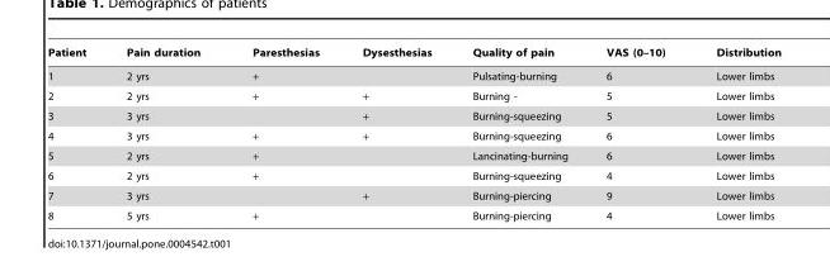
<table><thead><tr><td>Patient</td><td>Pain duration</td><td>Paresthesias</td><td>Dysesthesias</td><td>Quality of pain</td><td>VAS (0–10)</td><td>Distribution</td></tr></thead><tbody><tr><td>1</td><td>2 yrs</td><td>+</td><td></td><td>Pulsating-burning</td><td>6</td><td>Lower limbs</td></tr><tr><td>2</td><td>2 yrs</td><td>+</td><td>+</td><td>Burning -</td><td>5</td><td>Lower limbs</td></tr><tr><td>3</td><td>3 yrs</td><td></td><td>+</td><td>Burning-squeezing</td><td>5</td><td>Lower limbs</td></tr><tr><td>4</td><td>3 yrs</td><td>+</td><td>+</td><td>Burning-squeezing</td><td>6</td><td>Lower limbs</td></tr><tr><td>5</td><td>2 yrs</td><td>+</td><td></td><td>Lancinating-burning</td><td>6</td><td>Lower limbs</td></tr><tr><td>6</td><td>2 yrs</td><td>+</td><td></td><td>Burning-squeezing</td><td>4</td><td>Lower limbs</td></tr><tr><td>7</td><td>3 yrs</td><td></td><td>+</td><td>Burning-piercing</td><td>9</td><td>Lower limbs</td></tr><tr><td>8</td><td>5 yrs</td><td>+</td><td></td><td>Burning-piercing</td><td>4</td><td>Lower limbs</td></tr></tbody></table>